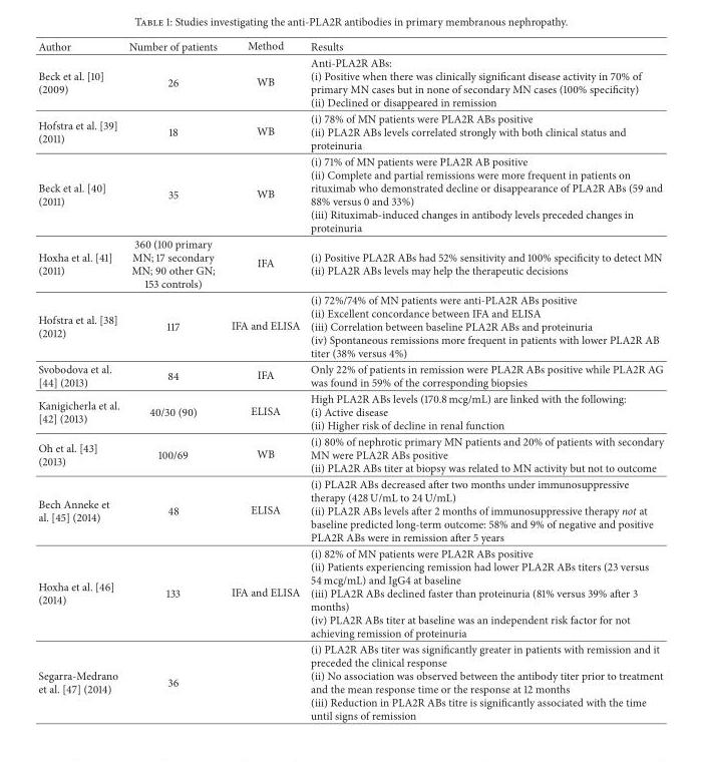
<table><thead><tr><td>Author</td><td>Number of patients</td><td>Method</td><td>Results</td></tr></thead><tbody><tr><td>Beck et al. [10] (2009)</td><td>26</td><td>WB</td><td>Anti-PLA2R ABs: (i) Positive when there was clinically significant disease activity in 70% of primary MN cases but in none of secondary MN cases (100% specificity) (ii) Declined or disappeared in remission</td></tr><tr><td>Hofstra et al. [39] (2011)</td><td>18</td><td>WB</td><td>(i) 78% of MN patients were PLA2R ABs positive (ii) PLA2R ABs levels correlated strongly with both clinical status and proteinuria</td></tr><tr><td>Beck et al. [40] (2011)</td><td>35</td><td>WB</td><td>(i) 71% of MN patients were PLA2R AB positive (ii) Complete and partial remissions were more frequent in patients on rituximab who demonstrated decline or disappearance of PLA2R ABs (59 and 88% versus 0 and 33%) (iii) Rituximab-induced changes in antibody levels preceded changes in proteinuria</td></tr><tr><td>Hoxha et al. [41] (2011)</td><td>360 (100 primary MN; 17 secondary MN; 90 other GN; 153 controls)</td><td>IFA</td><td>(i) Positive PLA2R ABs had 52% sensitivity and 100% specificity to detect MN (ii) PLA2R ABs levels may help the therapeutic decisions</td></tr><tr><td>Hofstra et al. [38] (2012)</td><td>117</td><td>IFA and ELISA</td><td>(i) 72%/74% of MN patients were anti-PLA2R ABs positive (ii) Excellent concordance between IFA and ELISA (iii) Correlation between baseline PLA2R ABs and proteinuria (iv) Spontaneous remissions more frequent in patients with lower PLA2R AB titer (38% versus 4%)</td></tr><tr><td>Svobodova et al. [44] (2013)</td><td>84</td><td>IFA</td><td>Only 22% of patients in remission were PLA2R ABs positive while PLA2R AG was found in 59% of the corresponding biopsies</td></tr><tr><td>Kanigicherla et al. [42] (2013)</td><td>40/30 (90)</td><td>ELISA</td><td>High PLA2R ABs levels (170.8 mcg/mL) are linked with the following: (i) Active disease (ii) Higher risk of decline in renal function</td></tr><tr><td>Oh et al. [43] (2013)</td><td>100/69</td><td>WB</td><td>(i) 80% of nephrotic primary MN patients and 20% of patients with secondary MN were PLA2R ABs positive (ii) PLA2R ABs titer at biopsy was related to MN activity but not to outcome</td></tr><tr><td>Bech Anneke et al. [45] (2014)</td><td>48</td><td>ELISA</td><td>(i) PLA2R ABs decreased after two months under immunosuppressive therapy (428 U/mL to 24 U/mL) (ii) PLA2R ABs levels after 2 months of immunosuppressive therapy not at baseline predicted long-term outcome: 58% and 9% of negative and positive PLA2R ABs were in remission after 5 years</td></tr><tr><td>Hoxha et al. [46] (2014)</td><td>133</td><td>IFA and ELISA</td><td>(i) 82% of MN patients were PLA2R ABs positive (ii) Patients experiencing remission had lower PLA2R ABs titers (23 versus 54 mcg/mL) and IgG4 at baseline (iii) PLA2R ABs declined faster than proteinuria (81% versus 39% after 3 months) (iv) PLA2R ABs titer at baseline was an independent risk factor for not achieving remission of proteinuria</td></tr><tr><td>Segarra-Medrano et al. [47] (2014)</td><td>36</td><td></td><td>(i) PLA2R ABs titer was significantly greater in patients with remission and it preceded the clinical response (ii) No association was observed between the antibody titer prior to treatment and the mean response time or the response at 12 months (iii) Reduction in PLA2R ABs titre is significantly associated with the time until signs of remission</td></tr></tbody></table>